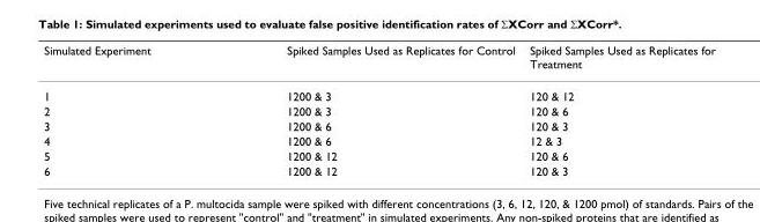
<table><thead><tr><td>Simulated Experiment</td><td>Spiked Samples Used as Replicates for Control</td><td>Spiked Samples Used as Replicates for Treatment</td></tr></thead><tbody><tr><td>1</td><td>1200 &amp; 3</td><td>120 &amp; 12</td></tr><tr><td>2</td><td>1200 &amp; 3</td><td>120 &amp; 6</td></tr><tr><td>3</td><td>1200 &amp; 6</td><td>120 &amp; 3</td></tr><tr><td>4</td><td>1200 &amp; 6</td><td>12 &amp; 3</td></tr><tr><td>5</td><td>1200 &amp; 12</td><td>120 &amp; 6</td></tr><tr><td>6</td><td>1200 &amp; 12</td><td>120 &amp; 3</td></tr></tbody></table>